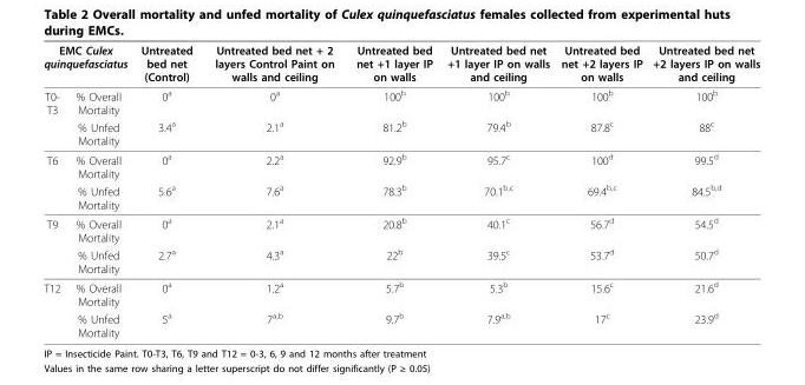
<table><thead><tr><td colspan="2">EMC Culex quinquefasciatus</td><td rowspan="2">Untreated bed net (Control) 0a</td><td rowspan="2">Untreated bed net + 2 layers Control Paint on walls and ceiling 0a</td><td rowspan="2">Untreated bed net +1 layer IP on walls 100b</td><td rowspan="2">Untreated bed net +1 layer IP on walls and ceiling 100b</td><td rowspan="2">Untreated bed net +2 layers IP on walls 100b</td><td rowspan="2">Untreated bed net +2 layers IP on walls and ceiling 100b</td></tr><tr><td>T0- T3</td><td>% Overall Mortality</td></tr></thead><tbody><tr><td></td><td>% Unfed Mortality</td><td>3.4a</td><td>2.1a</td><td>81.2b</td><td>79.4b</td><td>87.8c</td><td>88c</td></tr><tr><td rowspan="2">T6</td><td>% Overall Mortality</td><td>0<sup>a</sup></td><td>2.2<sup>a</sup></td><td>92.9<sup>b</sup></td><td>95.7<sup>c</sup></td><td>100<sup>d</sup></td><td>99.5<sup>d</sup></td></tr><tr><td>% Unfed Mortality</td><td>5.6<sup>a</sup></td><td>7.6<sup>a</sup></td><td>78.3<sup>b</sup></td><td>70.1<sup>b,c</sup></td><td>69.4<sup>b,c</sup></td><td>84.5<sup>b,d</sup></td></tr><tr><td rowspan="2">T9</td><td>% Overall Mortality</td><td>0<sup>a</sup></td><td>2.1a</td><td>20.8<sup>b</sup></td><td>40.1<sup>c</sup></td><td>56.7<sup>d</sup></td><td>54.5<sup>d</sup></td></tr><tr><td>% Unfed Mortality</td><td>2.7<sup>a</sup></td><td>4.3<sup>a</sup></td><td>22<sup>b</sup></td><td>39.5<sup>c</sup></td><td>53.7<sup>d</sup></td><td>50.7<sup>d</sup></td></tr><tr><td rowspan="2">T12</td><td>% Overall Mortality</td><td>0<sup>a</sup></td><td>1.2<sup>a</sup></td><td>5.7<sup>b</sup></td><td>5.3<sup>b</sup></td><td>15.6<sup>c</sup></td><td>21.6<sup>d</sup></td></tr><tr><td>% Unfed Mortality</td><td>5<sup>a</sup></td><td>7<sup>a,b</sup></td><td>9.7<sup>b</sup></td><td>7.9<sup>a,b</sup></td><td>17<sup>c</sup></td><td>23.9<sup>d</sup></td></tr></tbody></table>